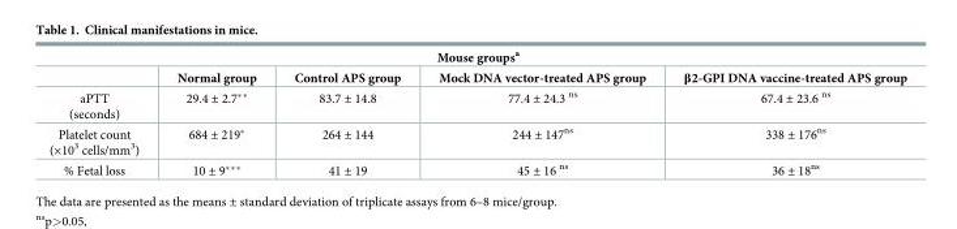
<table><thead><tr><td colspan="5">Mouse groups<sup>a</sup></td></tr><tr><td></td><td>Normal group</td><td>Control APS group</td><td>Mock DNA vector-treated APS group</td><td>β2-GPI DNA vaccine-treated APS group</td></tr></thead><tbody><tr><td>aPTT (seconds)</td><td>29.4 ± 2.7**</td><td>83.7 ± 14.8</td><td>77.4 ± 24.3 <sup>ns</sup></td><td>67.4 ± 23.6 <sup>ns</sup></td></tr><tr><td>Platelet count (×10<sup>3</sup> cells/mm<sup>3</sup>)</td><td>684 ± 219*</td><td>264 ± 144</td><td>244 ± 147<sup>ns</sup></td><td>338 ± 176<sup>ns</sup></td></tr><tr><td>% Fetal loss</td><td>10 ± 9***</td><td>41 ± 19</td><td>45 ± 16 <sup>ns</sup></td><td>36 ± 18<sup>ns</sup></td></tr></tbody></table>